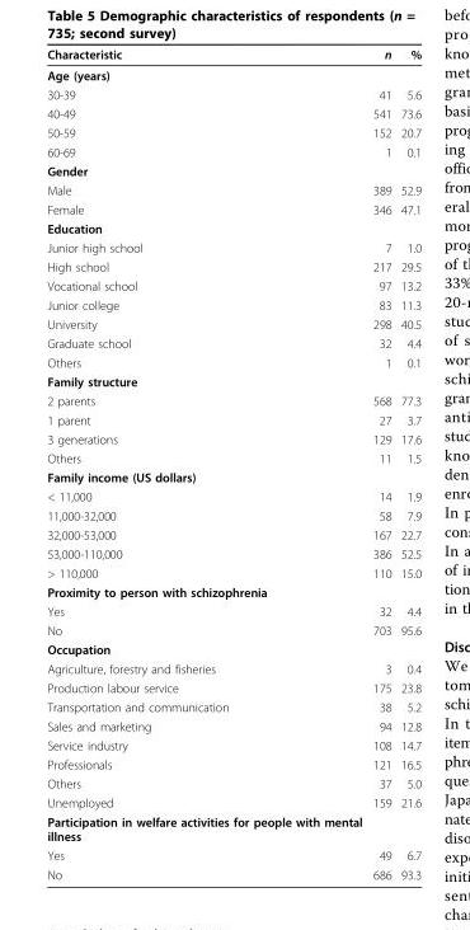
<table><thead><tr><td>Characteristic</td><td>n</td><td>%</td></tr></thead><tbody><tr><td colspan="3">Age (years)</td></tr><tr><td>30-39</td><td>41</td><td>5.6</td></tr><tr><td>40-49</td><td>541</td><td>73.6</td></tr><tr><td>50-59</td><td>152</td><td>20.7</td></tr><tr><td>60-69</td><td>1</td><td>0.1</td></tr><tr><td colspan="3">Gender</td></tr><tr><td>Male</td><td>389</td><td>52.9</td></tr><tr><td>Female</td><td>346</td><td>47.1</td></tr><tr><td colspan="3">Education</td></tr><tr><td>Junior high school</td><td>7</td><td>1.0</td></tr><tr><td>High school</td><td>217</td><td>29.5</td></tr><tr><td>Vocational school</td><td>97</td><td>13.2</td></tr><tr><td>Junior college</td><td>83</td><td>11.3</td></tr><tr><td>University</td><td>298</td><td>40.5</td></tr><tr><td>Graduate school</td><td>32</td><td>4.4</td></tr><tr><td>Others</td><td>1</td><td>0.1</td></tr><tr><td colspan="3">Family structure</td></tr><tr><td>2 parents</td><td>568</td><td>77.3</td></tr><tr><td>1 parent</td><td>27</td><td>3.7</td></tr><tr><td>3 generations</td><td>129</td><td>17.6</td></tr><tr><td>Others</td><td>11</td><td>1.5</td></tr><tr><td colspan="3">Family income (US dollars)</td></tr><tr><td>&lt; 11,000</td><td>14</td><td>1.9</td></tr><tr><td>11,000-32,000</td><td>58</td><td>7.9</td></tr><tr><td>32,000-53,000</td><td>167</td><td>22.7</td></tr><tr><td>53,000-110,000</td><td>386</td><td>52.5</td></tr><tr><td>&gt; 110,000</td><td>110</td><td>15.0</td></tr><tr><td colspan="3">Proximity to person with schizophrenia</td></tr><tr><td>Yes</td><td>32</td><td>4.4</td></tr><tr><td>No</td><td>703</td><td>95.6</td></tr><tr><td colspan="3">Occupation</td></tr><tr><td>Agriculture, forestry and fisheries</td><td>3</td><td>0.4</td></tr><tr><td>Production labour service</td><td>175</td><td>23.8</td></tr><tr><td>Transportation and communication</td><td>38</td><td>5.2</td></tr><tr><td>Sales and marketing</td><td>94</td><td>12.8</td></tr><tr><td>Service industry</td><td>108</td><td>14.7</td></tr><tr><td>Professionals</td><td>121</td><td>16.5</td></tr><tr><td>Others</td><td>37</td><td>5.0</td></tr><tr><td>Unemployed</td><td>159</td><td>21.6</td></tr><tr><td colspan="3">Participation in welfare activities for people with mental illness</td></tr><tr><td>Yes</td><td>49</td><td>6.7</td></tr><tr><td>No</td><td>686</td><td>93.3</td></tr></tbody></table>